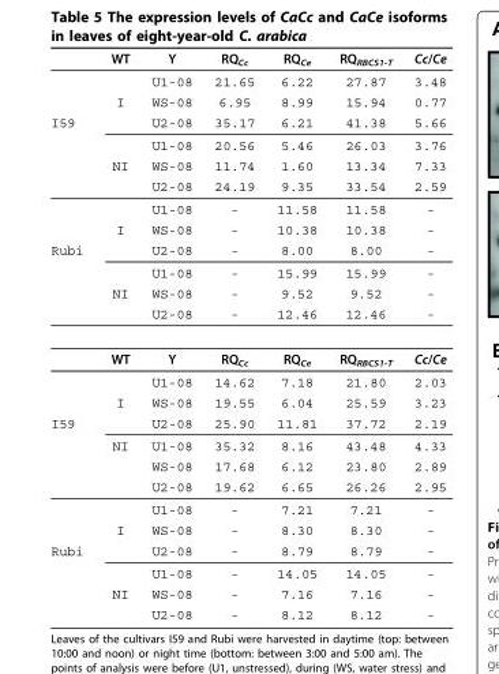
<table><thead><tr><td></td><td>WT</td><td>Y</td><td>RQCc</td><td>RQCe</td><td>RQRBCS1-T</td><td>Cc/Ce</td></tr></thead><tbody><tr><td></td><td></td><td>U1-08</td><td>21.65</td><td>6.22</td><td>27.87</td><td>3.48</td></tr><tr><td></td><td>I</td><td>WS-08</td><td>6.95</td><td>8.99</td><td>15.94</td><td>0.77</td></tr><tr><td rowspan="6">I59</td><td></td><td>U2-08</td><td>35.17</td><td>6.21</td><td>41.38</td><td>5.66</td></tr><tr><td></td><td>U1-08</td><td>20.56</td><td>5.46</td><td>26.03</td><td>3.76</td></tr><tr><td>NI</td><td>WS-08</td><td>11.74</td><td>1.60</td><td>13.34</td><td>7.33</td></tr><tr><td></td><td>U2-08</td><td>24.19</td><td>9.35</td><td>33.54</td><td>2.59</td></tr><tr><td></td><td>U1-08</td><td>-</td><td>11.58</td><td>11.58</td><td>-</td></tr><tr><td>I</td><td>WS-08</td><td>-</td><td>10.38</td><td>10.38</td><td>-</td></tr><tr><td rowspan="7">Rubi</td><td></td><td>U2-08</td><td>-</td><td>8.00</td><td>8.00</td><td>-</td></tr><tr><td></td><td>U1-08</td><td>-</td><td>15.99</td><td>15.99</td><td>-</td></tr><tr><td>NI</td><td>WS-08</td><td>-</td><td>9.52</td><td>9.52</td><td>-</td></tr><tr><td></td><td>U2-08</td><td>-</td><td>12.46</td><td>12.46</td><td>-</td></tr><tr><td>WT</td><td>Y</td><td>RQCc</td><td>RQCe</td><td>RQRBCS1-T</td><td>Cc/Ce</td></tr><tr><td></td><td>U1-08</td><td>14.62</td><td>7.18</td><td>21.80</td><td>2.03</td></tr><tr><td>I</td><td>WS-08</td><td>19.55</td><td>6.04</td><td>25.59</td><td>3.23</td></tr><tr><td rowspan="6">I59</td><td></td><td>U2-08</td><td>25.90</td><td>11.81</td><td>37.72</td><td>2.19</td></tr><tr><td>NI</td><td>U1-08</td><td>35.32</td><td>8.16</td><td>43.48</td><td>4.33</td></tr><tr><td></td><td>WS-08</td><td>17.68</td><td>6.12</td><td>23.80</td><td>2.89</td></tr><tr><td></td><td>U2-08</td><td>19.62</td><td>6.65</td><td>26.26</td><td>2.95</td></tr><tr><td></td><td>U1-08</td><td>-</td><td>7.21</td><td>7.21</td><td>-</td></tr><tr><td>I</td><td>WS-08</td><td>-</td><td>8.30</td><td>8.30</td><td>-</td></tr><tr><td rowspan="4">Rubi</td><td></td><td>U2-08</td><td>-</td><td>8.79</td><td>8.79</td><td>-</td></tr><tr><td></td><td>U1-08</td><td>-</td><td>14.05</td><td>14.05</td><td>-</td></tr><tr><td>NI</td><td>WS-08</td><td>-</td><td>7.16</td><td>7.16</td><td>-</td></tr><tr><td></td><td>U2-08</td><td>-</td><td>8.12</td><td>8.12</td><td>-</td></tr></tbody></table>